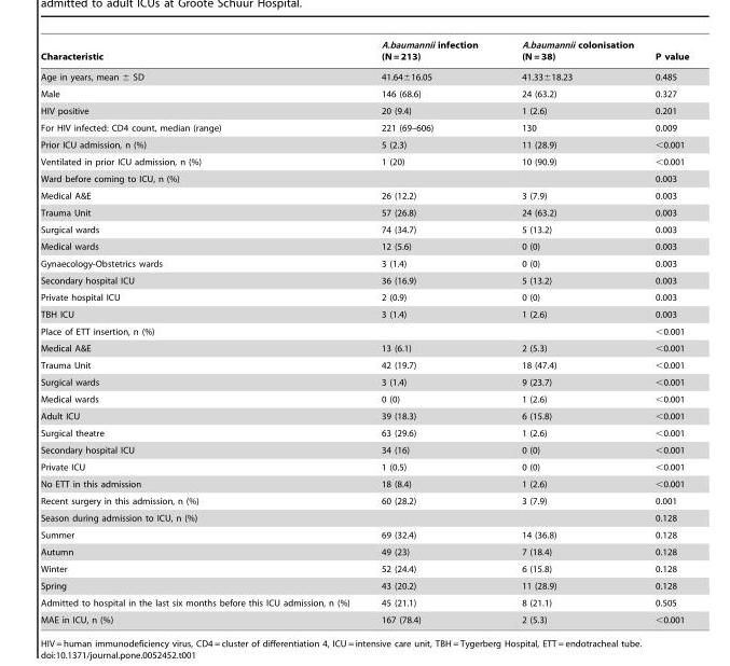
<table><thead><tr><td>Characteristic</td><td>A.baumannii infection (N = 213)</td><td>A.baumannii colonisation (N = 38)</td><td>P value</td></tr></thead><tbody><tr><td>Age in years, mean ± SD</td><td>41.64±16.05</td><td>41.33±18.23</td><td>0.485</td></tr><tr><td>Male</td><td>146 (68.6)</td><td>24 (63.2)</td><td>0.327</td></tr><tr><td>HIV positive</td><td>20 (9.4)</td><td>1 (2.6)</td><td>0.201</td></tr><tr><td>For HIV infected: CD4 count, median (range)</td><td>221 (69–606)</td><td>130</td><td>0.009</td></tr><tr><td>Prior ICU admission, n (%)</td><td>5 (2.3)</td><td>11 (28.9)</td><td>&lt;0.001</td></tr><tr><td>Ventilated in prior ICU admission, n (%)</td><td>1 (20)</td><td>10 (90.9)</td><td>&lt;0.001</td></tr><tr><td>Ward before coming to ICU, n (%)</td><td></td><td></td><td>0.003</td></tr><tr><td>Medical A&amp;E</td><td>26 (12.2)</td><td>3 (7.9)</td><td>0.003</td></tr><tr><td>Trauma Unit</td><td>57 (26.8)</td><td>24 (63.2)</td><td>0.003</td></tr><tr><td>Surgical wards</td><td>74 (34.7)</td><td>5 (13.2)</td><td>0.003</td></tr><tr><td>Medical wards</td><td>12 (5.6)</td><td>0 (0)</td><td>0.003</td></tr><tr><td>Gynaecology-Obstetrics wards</td><td>3 (1.4)</td><td>0 (0)</td><td>0.003</td></tr><tr><td>Secondary hospital ICU</td><td>36 (16.9)</td><td>5 (13.2)</td><td>0.003</td></tr><tr><td>Private hospital ICU</td><td>2 (0.9)</td><td>0 (0)</td><td>0.003</td></tr><tr><td>TBH ICU</td><td>3 (1.4)</td><td>1 (2.6)</td><td>0.003</td></tr><tr><td>Place of ETT insertion, n (%)</td><td></td><td></td><td>&lt;0.001</td></tr><tr><td>Medical A&amp;E</td><td>13 (6.1)</td><td>2 (5.3)</td><td>&lt;0.001</td></tr><tr><td>Trauma Unit</td><td>42 (19.7)</td><td>18 (47.4)</td><td>&lt;0.001</td></tr><tr><td>Surgical wards</td><td>3 (1.4)</td><td>9 (23.7)</td><td>&lt;0.001</td></tr><tr><td>Medical wards</td><td>0 (0)</td><td>1 (2.6)</td><td>&lt;0.001</td></tr><tr><td>Adult ICU</td><td>39 (18.3)</td><td>6 (15.8)</td><td>&lt;0.001</td></tr><tr><td>Surgical theatre</td><td>63 (29.6)</td><td>1 (2.6)</td><td>&lt;0.001</td></tr><tr><td>Secondary hospital ICU</td><td>34 (16)</td><td>0 (0)</td><td>&lt;0.001</td></tr><tr><td>Private ICU</td><td>1 (0.5)</td><td>0 (0)</td><td>&lt;0.001</td></tr><tr><td>No ETT in this admission</td><td>18 (8.4)</td><td>1 (2.6)</td><td>&lt;0.001</td></tr><tr><td>Recent surgery in this admission, n (%)</td><td>60 (28.2)</td><td>3 (7.9)</td><td>0.001</td></tr><tr><td>Season during admission to ICU, n (%)</td><td></td><td></td><td>0.128</td></tr><tr><td>Summer</td><td>69 (32.4)</td><td>14 (36.8)</td><td>0.128</td></tr><tr><td>Autumn</td><td>49 (23)</td><td>7 (18.4)</td><td>0.128</td></tr><tr><td>Winter</td><td>52 (24.4)</td><td>6 (15.8)</td><td>0.128</td></tr><tr><td>Spring</td><td>43 (20.2)</td><td>11 (28.9)</td><td>0.128</td></tr><tr><td>Admitted to hospital in the last six months before this ICU admission, n (%)</td><td>45 (21.1)</td><td>8 (21.1)</td><td>0.505</td></tr><tr><td>MAE in ICU, n (%)</td><td>167 (78.4)</td><td>2 (5.3)</td><td>&lt;0.001</td></tr></tbody></table>